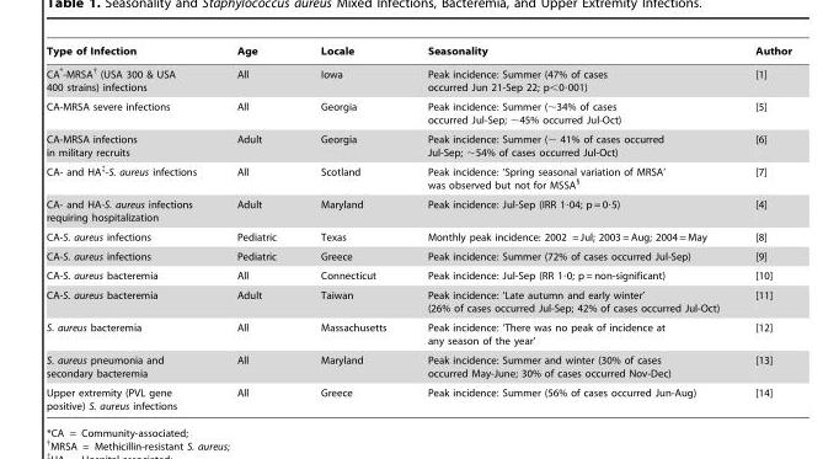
<table><thead><tr><td>Type of Infection</td><td>Age</td><td>Locale</td><td>Seasonality</td><td>Author</td></tr></thead><tbody><tr><td>CA*-MRSA† (USA 300 &amp; USA 400 strains) infections</td><td>All</td><td>Iowa</td><td>Peak incidence: Summer (47% of cases occurred Jun 21-Sep 22; p&lt;0·001)</td><td>[1]</td></tr><tr><td>CA-MRSA severe infections</td><td>All</td><td>Georgia</td><td>Peak incidence: Summer (∼34% of cases occurred Jul-Sep; ∼45% occurred Jul-Oct)</td><td>[5]</td></tr><tr><td>CA-MRSA infections in military recruits</td><td>Adult</td><td>Georgia</td><td>Peak incidence: Summer (∼ 41% of cases occurred Jul-Sep; ∼54% of cases occurred Jul-Oct)</td><td>[6]</td></tr><tr><td>CA- and HA‡-S. aureus infections</td><td>All</td><td>Scotland</td><td>Peak incidence: ‘Spring seasonal variation of MRSA’ was observed but not for MSSA§</td><td>[7]</td></tr><tr><td>CA- and HA-S. aureus infections requiring hospitalization</td><td>Adult</td><td>Maryland</td><td>Peak incidence: Jul-Sep (IRR 1·04; p = 0·5)</td><td>[4]</td></tr><tr><td>CA-S. aureus infections</td><td>Pediatric</td><td>Texas</td><td>Monthly peak incidence: 2002 = Jul; 2003 = Aug; 2004 = May</td><td>[8]</td></tr><tr><td>CA-S. aureus infections</td><td>Pediatric</td><td>Greece</td><td>Peak incidence: Summer (72% of cases occurred Jul-Sep)</td><td>[9]</td></tr><tr><td>CA-S. aureus bacteremia</td><td>All</td><td>Connecticut</td><td>Peak incidence: Jul-Sep (RR 1·0; p = non-significant)</td><td>[10]</td></tr><tr><td>CA-S. aureus bacteremia</td><td>Adult</td><td>Taiwan</td><td>Peak incidence: ‘Late autumn and early winter’ (26% of cases occurred Jul-Sep; 42% of cases occurred Jul-Oct)</td><td>[11]</td></tr><tr><td>S. aureus bacteremia</td><td>All</td><td>Massachusetts</td><td>Peak incidence: ‘There was no peak of incidence at any season of the year’</td><td>[12]</td></tr><tr><td>S. aureus pneumonia and secondary bacteremia</td><td>All</td><td>Maryland</td><td>Peak incidence: Summer and winter (30% of cases occurred May-June; 30% of cases occurred Nov-Dec)</td><td>[13]</td></tr><tr><td>Upper extremity (PVL gene positive) S. aureus infections</td><td>All</td><td>Greece</td><td>Peak incidence: Summer (56% of cases occurred Jun-Aug)</td><td>[14]</td></tr></tbody></table>